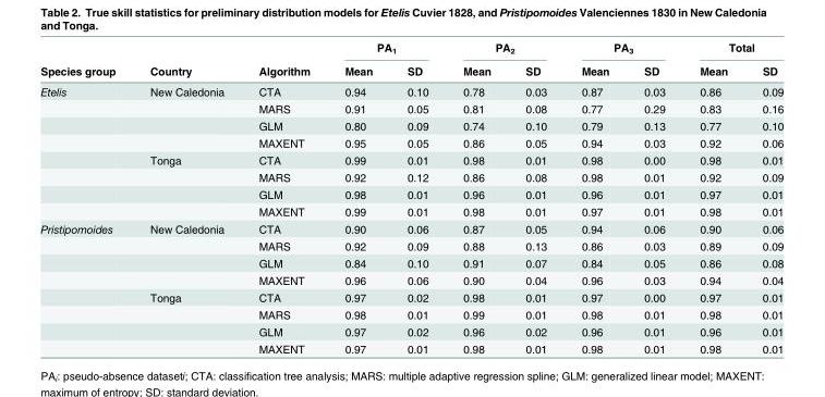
<table><thead><tr><td rowspan="2">Species group</td><td rowspan="2">Country</td><td rowspan="2">Algorithm</td><td colspan="2">PA<sub>1</sub></td><td colspan="2">PA<sub>2</sub></td><td colspan="2">PA<sub>3</sub></td><td colspan="2">Total</td></tr><tr><td>Mean</td><td>SD</td><td>Mean</td><td>SD</td><td>Mean</td><td>SD</td><td>Mean</td><td>SD</td></tr></thead><tbody><tr><td rowspan="8">Etelis</td><td>New Caledonia</td><td>CTA</td><td>0.94</td><td>0.10</td><td>0.78</td><td>0.03</td><td>0.87</td><td>0.03</td><td>0.86</td><td>0.09</td></tr><tr><td></td><td>MARS</td><td>0.91</td><td>0.05</td><td>0.81</td><td>0.08</td><td>0.77</td><td>0.29</td><td>0.83</td><td>0.16</td></tr><tr><td></td><td>GLM</td><td>0.80</td><td>0.09</td><td>0.74</td><td>0.10</td><td>0.79</td><td>0.13</td><td>0.77</td><td>0.10</td></tr><tr><td></td><td>MAXENT</td><td>0.95</td><td>0.05</td><td>0.86</td><td>0.05</td><td>0.94</td><td>0.03</td><td>0.92</td><td>0.06</td></tr><tr><td>Tonga</td><td>CTA</td><td>0.99</td><td>0.01</td><td>0.98</td><td>0.01</td><td>0.98</td><td>0.00</td><td>0.98</td><td>0.01</td></tr><tr><td></td><td>MARS</td><td>0.92</td><td>0.12</td><td>0.86</td><td>0.08</td><td>0.98</td><td>0.01</td><td>0.92</td><td>0.09</td></tr><tr><td></td><td>GLM</td><td>0.98</td><td>0.01</td><td>0.96</td><td>0.01</td><td>0.96</td><td>0.01</td><td>0.97</td><td>0.01</td></tr><tr><td></td><td>MAXENT</td><td>0.99</td><td>0.01</td><td>0.98</td><td>0.01</td><td>0.97</td><td>0.01</td><td>0.98</td><td>0.01</td></tr><tr><td rowspan="8">Pristipomoides</td><td>New Caledonia</td><td>CTA</td><td>0.90</td><td>0.06</td><td>0.87</td><td>0.05</td><td>0.94</td><td>0.06</td><td>0.90</td><td>0.06</td></tr><tr><td></td><td>MARS</td><td>0.92</td><td>0.09</td><td>0.88</td><td>0.13</td><td>0.86</td><td>0.03</td><td>0.89</td><td>0.09</td></tr><tr><td></td><td>GLM</td><td>0.84</td><td>0.10</td><td>0.91</td><td>0.07</td><td>0.84</td><td>0.05</td><td>0.86</td><td>0.08</td></tr><tr><td></td><td>MAXENT</td><td>0.96</td><td>0.06</td><td>0.90</td><td>0.04</td><td>0.96</td><td>0.03</td><td>0.94</td><td>0.04</td></tr><tr><td>Tonga</td><td>CTA</td><td>0.97</td><td>0.02</td><td>0.98</td><td>0.01</td><td>0.97</td><td>0.00</td><td>0.97</td><td>0.01</td></tr><tr><td></td><td>MARS</td><td>0.98</td><td>0.01</td><td>0.99</td><td>0.01</td><td>0.98</td><td>0.01</td><td>0.98</td><td>0.01</td></tr><tr><td></td><td>GLM</td><td>0.97</td><td>0.02</td><td>0.96</td><td>0.02</td><td>0.96</td><td>0.01</td><td>0.96</td><td>0.01</td></tr><tr><td></td><td>MAXENT</td><td>0.97</td><td>0.01</td><td>0.98</td><td>0.01</td><td>0.98</td><td>0.01</td><td>0.98</td><td>0.01</td></tr></tbody></table>